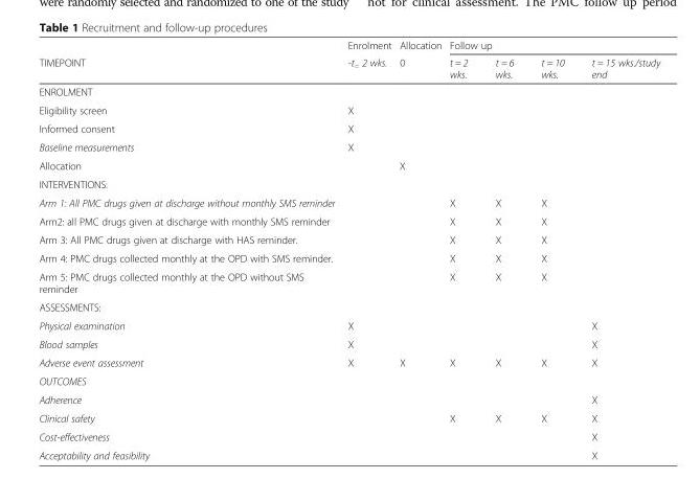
<table><thead><tr><td rowspan="2">TIMEPOINT</td><td rowspan="2">Enrolment -t= 2 wks.</td><td rowspan="2">Allocation 0</td><td colspan="4">Follow up</td></tr><tr><td>t = 2 wks.</td><td>t = 6 wks.</td><td>t = 10 wks.</td><td>t = 15 wks./study end</td></tr></thead><tbody><tr><td colspan="7">ENROLMENT</td></tr><tr><td>Eligibility screen</td><td>X</td><td></td><td></td><td></td><td></td><td></td></tr><tr><td>Informed consent</td><td>X</td><td></td><td></td><td></td><td></td><td></td></tr><tr><td>Baseline measurements</td><td>X</td><td></td><td></td><td></td><td></td><td></td></tr><tr><td>Allocation</td><td></td><td>X</td><td></td><td></td><td></td><td></td></tr><tr><td colspan="7">INTERVENTIONS:</td></tr><tr><td>Arm 1: All PMC drugs given at discharge without monthly SMS reminder</td><td></td><td></td><td>X</td><td>X</td><td>X</td><td></td></tr><tr><td>Arm2: all PMC drugs given at discharge with monthly SMS reminder</td><td></td><td></td><td>X</td><td>X</td><td>X</td><td></td></tr><tr><td>Arm 3: All PMC drugs given at discharge with HAS reminder.</td><td></td><td></td><td>X</td><td>X</td><td>X</td><td></td></tr><tr><td>Arm 4: PMC drugs collected monthly at the OPD with SMS reminder.</td><td></td><td></td><td>X</td><td>X</td><td>X</td><td></td></tr><tr><td>Arm 5: PMC drugs collected monthly at the OPD without SMS reminder</td><td></td><td></td><td>X</td><td>X</td><td>X</td><td></td></tr><tr><td colspan="7">ASSESSMENTS:</td></tr><tr><td>Physical examination</td><td>X</td><td></td><td></td><td></td><td></td><td>X</td></tr><tr><td>Blood samples</td><td>X</td><td></td><td></td><td></td><td></td><td>X</td></tr><tr><td>Adverse event assessment</td><td>X</td><td>X</td><td>X</td><td>X</td><td>X</td><td>X</td></tr><tr><td colspan="7">OUTCOMES</td></tr><tr><td>Adherence</td><td></td><td></td><td></td><td></td><td></td><td>X</td></tr><tr><td>Clinical safety</td><td></td><td></td><td>X</td><td>X</td><td>X</td><td>X</td></tr><tr><td>Cost-effectiveness</td><td></td><td></td><td></td><td></td><td></td><td>X</td></tr><tr><td>Acceptability and feasibility</td><td></td><td></td><td></td><td></td><td></td><td>X</td></tr></tbody></table>